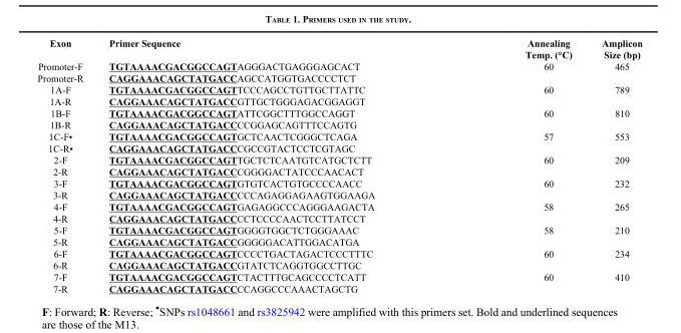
<table><thead><tr><td>Exon</td><td>Primer Sequence</td><td>Annealing Temp. (°C)</td><td>Amplicon Size (bp)</td></tr></thead><tbody><tr><td>Promoter-F</td><td>TGTAAAACGACGGCCAGTAGGGACTGAGGGAGCACT</td><td>60</td><td>465</td></tr><tr><td>Promoter-R</td><td>CAGGAAACAGCTATGACCAGCCATGGTGACCCCTCT</td><td></td><td></td></tr><tr><td>1A-F</td><td>TGTAAAACGACGGCCAGTTCCCAGCCTGTTGCTTATTC</td><td>60</td><td>789</td></tr><tr><td>1A-R</td><td>CAGGAAACAGCTATGACCGTTGCTGGGAGACGGAGGT</td><td></td><td></td></tr><tr><td>1B-F</td><td>TGTAAAACGACGGCCAGTATTCGGCTTTGGCCAGGT</td><td>60</td><td>810</td></tr><tr><td>1B-R</td><td>CAGGAAACAGCTATGACCCCGGAGCAGTTTCCAGTG</td><td></td><td></td></tr><tr><td>1C-F•</td><td>TGTAAAACGACGGCCAGTGCTCAACTCGGGCTCAGA</td><td>57</td><td>553</td></tr><tr><td>1C-R•</td><td>CAGGAAACAGCTATGACCCGCCGTACTCCTCGTAGC</td><td></td><td></td></tr><tr><td>2-F</td><td>TGTAAAACGACGGCCAGTTGCTCTCAATGTCATGCTCTT</td><td>60</td><td>209</td></tr><tr><td>2-R</td><td>CAGGAAACAGCTATGACCCGGGGACTATCCCAACACT</td><td></td><td></td></tr><tr><td>3-F</td><td>TGTAAAACGACGGCCAGTGTGTCACTGTGCCCCAACC</td><td>60</td><td>232</td></tr><tr><td>3-R</td><td>CAGGAAACAGCTATGACCCCCAGAGGAGAAGTGGAAGA</td><td></td><td></td></tr><tr><td>4-F</td><td>TGTAAAACGACGGCCAGTGAGAGGCCCAGGGAAGACTA</td><td>58</td><td>265</td></tr><tr><td>4-R</td><td>CAGGAAACAGCTATGACCCCTCCCCAACTCCTTATCCT</td><td></td><td></td></tr><tr><td>5-F</td><td>TGTAAAACGACGGCCAGTGGGGTGGCTCTGGGAAAC</td><td>58</td><td>210</td></tr><tr><td>5-R</td><td>CAGGAAACAGCTATGACCGGGGGACATTGGACATGA</td><td></td><td></td></tr><tr><td>6-F</td><td>TGTAAAACGACGGCCAGTCCCCTGACTAGACTCCCTTTC</td><td>60</td><td>234</td></tr><tr><td>6-R</td><td>CAGGAAACAGCTATGACCGTATCTCAGGTGGCCTTGC</td><td></td><td></td></tr><tr><td>7-F</td><td>TGTAAAACGACGGCCAGTCTACTTTGCAGCCCCTCATT</td><td>60</td><td>410</td></tr><tr><td>7-R</td><td>CAGGAAACAGCTATGACCCCAGGCCCAAACTAGCTG</td><td></td><td></td></tr></tbody></table>